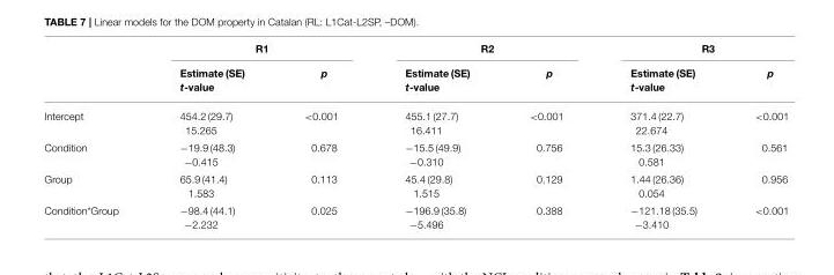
<table><thead><tr><td rowspan="2"></td><td colspan="2">R1</td><td colspan="2">R2</td><td colspan="2">R3</td></tr><tr><td>Estimate (SE) t-value</td><td>p</td><td>Estimate (SE) t-value</td><td>p</td><td>Estimate (SE) t-value</td><td>p</td></tr></thead><tbody><tr><td>Intercept</td><td>454.2 (29.7) 15.265</td><td>&lt;0.001</td><td>455.1 (27.7) 16.411</td><td>&lt;0.001</td><td>371.4 (22.7) 22.674</td><td>&lt;0.001</td></tr><tr><td>Condition</td><td>−19.9 (48.3) −0.415</td><td>0.678</td><td>−15.5 (49.9) −0.310</td><td>0.756</td><td>15.3 (26.33) 0.581</td><td>0.561</td></tr><tr><td>Group</td><td>65.9 (41.4) 1.583</td><td>0.113</td><td>45.4 (29.8) 1.515</td><td>0.129</td><td>1.44 (26.36) 0.054</td><td>0.956</td></tr><tr><td>Condition*Group</td><td>−98.4 (44.1) −2.232</td><td>0.025</td><td>−196.9 (35.8) −5.496</td><td>0.388</td><td>−121.18 (35.5) −3.410</td><td>&lt;0.001</td></tr></tbody></table>